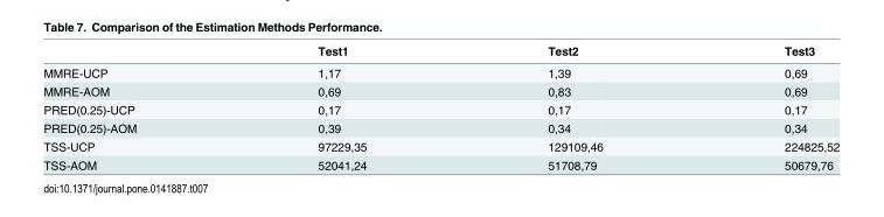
<table><thead><tr><td></td><td>Test1</td><td>Test2</td><td>Test3</td></tr></thead><tbody><tr><td>MMRE-UCP</td><td>1,17</td><td>1,39</td><td>0,69</td></tr><tr><td>MMRE-AOM</td><td>0,69</td><td>0,83</td><td>0,69</td></tr><tr><td>PRED(0.25)-UCP</td><td>0,17</td><td>0,17</td><td>0,17</td></tr><tr><td>PRED(0.25)-AOM</td><td>0,39</td><td>0,34</td><td>0,34</td></tr><tr><td>TSS-UCP</td><td>97229,35</td><td>129109,46</td><td>224825,52</td></tr><tr><td>TSS-AOM</td><td>52041,24</td><td>51708,79</td><td>50679,76</td></tr></tbody></table>